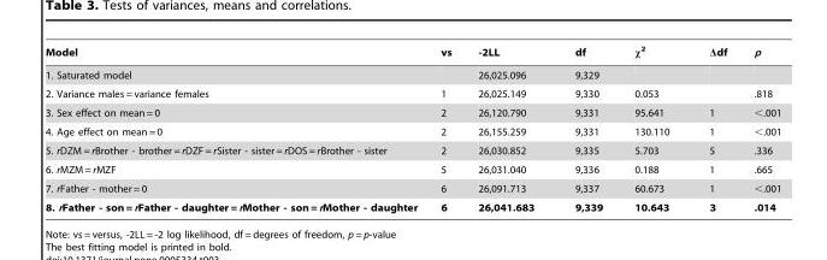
<table><thead><tr><td>Model</td><td>vs</td><td>-2LL</td><td>df</td><td>χ<sup>2</sup></td><td>Δdf</td><td>p</td></tr></thead><tbody><tr><td>1. Saturated model</td><td></td><td>26,025.096</td><td>9,329</td><td></td><td></td><td></td></tr><tr><td>2. Variance males = variance females</td><td>1</td><td>26,025.149</td><td>9,330</td><td>0.053</td><td></td><td>.818</td></tr><tr><td>3. Sex effect on mean = 0</td><td>2</td><td>26,120.790</td><td>9,331</td><td>95.641</td><td>1</td><td>&lt;.001</td></tr><tr><td>4. Age effect on mean = 0</td><td>2</td><td>26,155.259</td><td>9,331</td><td>130.110</td><td>1</td><td>&lt;.001</td></tr><tr><td>5. rDZM = rBrother - brother = rDZF = rSister - sister = rDOS = rBrother - sister</td><td>2</td><td>26,030.852</td><td>9,335</td><td>5.703</td><td>5</td><td>.336</td></tr><tr><td>6. rMZM = rMZF</td><td>5</td><td>26,031.040</td><td>9,336</td><td>0.188</td><td>1</td><td>.665</td></tr><tr><td>7. rFather - mother = 0</td><td>6</td><td>26,091.713</td><td>9,337</td><td>60.673</td><td>1</td><td>&lt;.001</td></tr><tr><td>8. rFather - son = rFather - daughter = rMother - son = rMother - daughter</td><td>6</td><td>26,041.683</td><td>9,339</td><td>10.643</td><td>3</td><td>.014</td></tr></tbody></table>